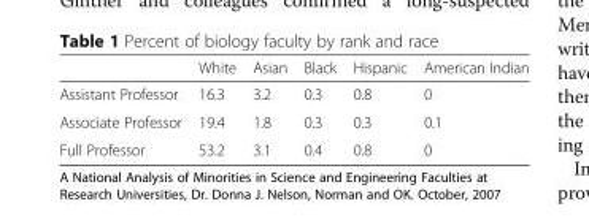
<table><thead><tr><td></td><td>White</td><td>Asian</td><td>Black</td><td>Hispanic</td><td>American Indian</td></tr></thead><tbody><tr><td>Assistant Professor</td><td>16.3</td><td>3.2</td><td>0.3</td><td>0.8</td><td>0</td></tr><tr><td>Associate Professor</td><td>19.4</td><td>1.8</td><td>0.3</td><td>0.3</td><td>0.1</td></tr><tr><td>Full Professor</td><td>53.2</td><td>3.1</td><td>0.4</td><td>0.8</td><td>0</td></tr></tbody></table>